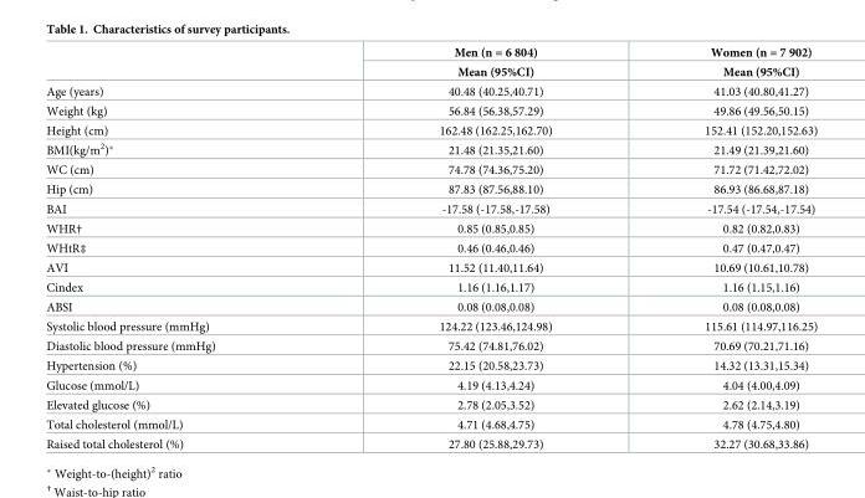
<table><thead><tr><td rowspan="2"></td><td rowspan="2">Men (n = 6 804) Mean (95%CI)</td><td rowspan="2">Women (n = 7 902) Mean (95%CI)</td></tr><tr></tr></thead><tbody><tr><td>Age (years)</td><td>40.48 (40.25,40.71)</td><td>41.03 (40.80,41.27)</td></tr><tr><td>Weight (kg)</td><td>56.84 (56.38,57.29)</td><td>49.86 (49.56,50.15)</td></tr><tr><td>Height (cm)</td><td>162.48 (162.25,162.70)</td><td>152.41 (152.20,152.63)</td></tr><tr><td>BMI(kg/m<sup>2</sup>)*</td><td>21.48 (21.35,21.60)</td><td>21.49 (21.39,21.60)</td></tr><tr><td>WC (cm)</td><td>74.78 (74.36,75.20)</td><td>71.72 (71.42,72.02)</td></tr><tr><td>Hip (cm)</td><td>87.83 (87.56,88.10)</td><td>86.93 (86.68,87.18)</td></tr><tr><td>BAI</td><td>-17.58 (-17.58,-17.58)</td><td>-17.54 (-17.54,-17.54)</td></tr><tr><td>WHR†</td><td>0.85 (0.85,0.85)</td><td>0.82 (0.82,0.83)</td></tr><tr><td>WHtR‡</td><td>0.46 (0.46,0.46)</td><td>0.47 (0.47,0.47)</td></tr><tr><td>AVI</td><td>11.52 (11.40,11.64)</td><td>10.69 (10.61,10.78)</td></tr><tr><td>Cindex</td><td>1.16 (1.16,1.17)</td><td>1.16 (1.15,1.16)</td></tr><tr><td>ABSI</td><td>0.08 (0.08,0.08)</td><td>0.08 (0.08,0.08)</td></tr><tr><td>Systolic blood pressure (mmHg)</td><td>124.22 (123.46,124.98)</td><td>115.61 (114.97,116.25)</td></tr><tr><td>Diastolic blood pressure (mmHg)</td><td>75.42 (74.81,76.02)</td><td>70.69 (70.21,71.16)</td></tr><tr><td>Hypertension (%)</td><td>22.15 (20.58,23.73)</td><td>14.32 (13.31,15.34)</td></tr><tr><td>Glucose (mmol/L)</td><td>4.19 (4.13,4.24)</td><td>4.04 (4.00,4.09)</td></tr><tr><td>Elevated glucose (%)</td><td>2.78 (2.05,3.52)</td><td>2.62 (2.14,3.19)</td></tr><tr><td>Total cholesterol (mmol/L)</td><td>4.71 (4.68,4.75)</td><td>4.78 (4.75,4.80)</td></tr><tr><td>Raised total cholesterol (%)</td><td>27.80 (25.88,29.73)</td><td>32.27 (30.68,33.86)</td></tr></tbody></table>